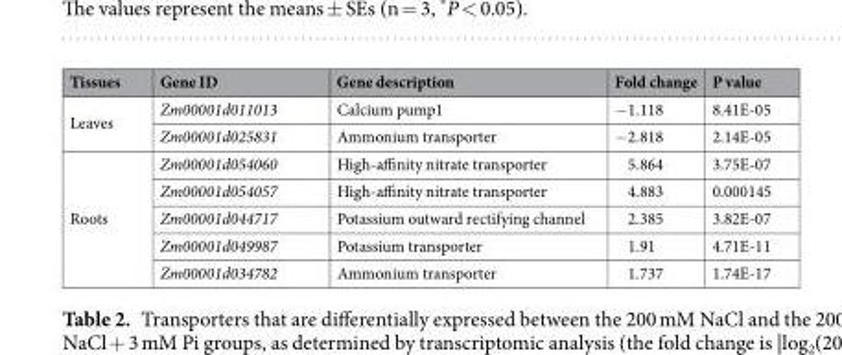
<table><thead><tr><td>Tissues</td><td>Gene ID</td><td>Gene description</td><td>Fold change</td><td>P value</td></tr></thead><tbody><tr><td rowspan="2">Leaves</td><td>Zm00001d011013</td><td>Calcium pump1</td><td>−1.118</td><td>8.41E-05</td></tr><tr><td>Zm00001d025831</td><td>Ammonium transporter</td><td>−2.818</td><td>2.14E-05</td></tr><tr><td rowspan="5">Roots</td><td>Zm00001d054060</td><td>High-affinity nitrate transporter</td><td>5.864</td><td>3.75E-07</td></tr><tr><td>Zm00001d054057</td><td>High-affinity nitrate transporter</td><td>4.883</td><td>0.000145</td></tr><tr><td>Zm00001d044717</td><td>Potassium outward rectifying channel</td><td>2.385</td><td>3.82E-07</td></tr><tr><td>Zm00001d049987</td><td>Potassium transporter</td><td>1.91</td><td>4.71E-11</td></tr><tr><td>Zm00001d034782</td><td>Ammonium transporter</td><td>1.737</td><td>1.74E-17</td></tr></tbody></table>